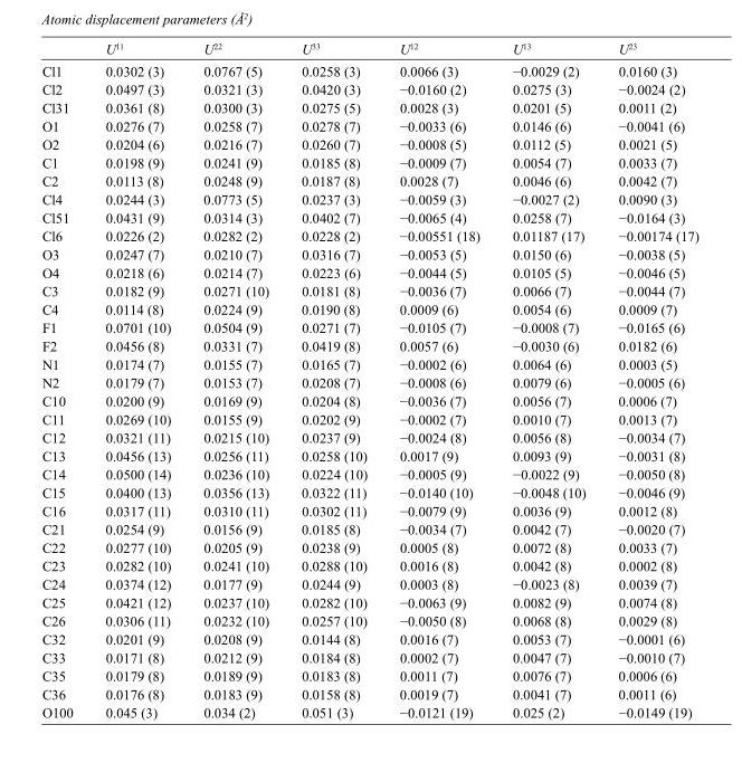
<table><thead><tr><td></td><td>U<sup>11</sup></td><td>U<sup>22</sup></td><td>U<sup>33</sup></td><td>U<sup>12</sup></td><td>U<sup>13</sup></td><td>U<sup>23</sup></td></tr></thead><tbody><tr><td>Cl1</td><td>0.0302 (3)</td><td>0.0767 (5)</td><td>0.0258 (3)</td><td>0.0066 (3)</td><td>−0.0029 (2)</td><td>0.0160 (3)</td></tr><tr><td>Cl2</td><td>0.0497 (3)</td><td>0.0321 (3)</td><td>0.0420 (3)</td><td>−0.0160 (2)</td><td>0.0275 (3)</td><td>−0.0024 (2)</td></tr><tr><td>Cl31</td><td>0.0361 (8)</td><td>0.0300 (3)</td><td>0.0275 (5)</td><td>0.0028 (3)</td><td>0.0201 (5)</td><td>0.0011 (2)</td></tr><tr><td>O1</td><td>0.0276 (7)</td><td>0.0258 (7)</td><td>0.0278 (7)</td><td>−0.0033 (6)</td><td>0.0146 (6)</td><td>−0.0041 (6)</td></tr><tr><td>O2</td><td>0.0204 (6)</td><td>0.0216 (7)</td><td>0.0260 (7)</td><td>−0.0008 (5)</td><td>0.0112 (5)</td><td>0.0021 (5)</td></tr><tr><td>C1</td><td>0.0198 (9)</td><td>0.0241 (9)</td><td>0.0185 (8)</td><td>−0.0009 (7)</td><td>0.0054 (7)</td><td>0.0033 (7)</td></tr><tr><td>C2</td><td>0.0113 (8)</td><td>0.0248 (9)</td><td>0.0187 (8)</td><td>0.0028 (7)</td><td>0.0046 (6)</td><td>0.0042 (7)</td></tr><tr><td>Cl4</td><td>0.0244 (3)</td><td>0.0773 (5)</td><td>0.0237 (3)</td><td>−0.0059 (3)</td><td>−0.0027 (2)</td><td>0.0090 (3)</td></tr><tr><td>Cl51</td><td>0.0431 (9)</td><td>0.0314 (3)</td><td>0.0402 (7)</td><td>−0.0065 (4)</td><td>0.0258 (7)</td><td>−0.0164 (3)</td></tr><tr><td>Cl6</td><td>0.0226 (2)</td><td>0.0282 (2)</td><td>0.0228 (2)</td><td>−0.00551 (18)</td><td>0.01187 (17)</td><td>−0.00174 (17)</td></tr><tr><td>O3</td><td>0.0247 (7)</td><td>0.0210 (7)</td><td>0.0316 (7)</td><td>−0.0053 (5)</td><td>0.0150 (6)</td><td>−0.0038 (5)</td></tr><tr><td>O4</td><td>0.0218 (6)</td><td>0.0214 (7)</td><td>0.0223 (6)</td><td>−0.0044 (5)</td><td>0.0105 (5)</td><td>−0.0046 (5)</td></tr><tr><td>C3</td><td>0.0182 (9)</td><td>0.0271 (10)</td><td>0.0181 (8)</td><td>−0.0036 (7)</td><td>0.0066 (7)</td><td>−0.0044 (7)</td></tr><tr><td>C4</td><td>0.0114 (8)</td><td>0.0224 (9)</td><td>0.0190 (8)</td><td>0.0009 (6)</td><td>0.0054 (6)</td><td>0.0009 (7)</td></tr><tr><td>F1</td><td>0.0701 (10)</td><td>0.0504 (9)</td><td>0.0271 (7)</td><td>−0.0105 (7)</td><td>−0.0008 (7)</td><td>−0.0165 (6)</td></tr><tr><td>F2</td><td>0.0456 (8)</td><td>0.0331 (7)</td><td>0.0419 (8)</td><td>0.0057 (6)</td><td>−0.0030 (6)</td><td>0.0182 (6)</td></tr><tr><td>N1</td><td>0.0174 (7)</td><td>0.0155 (7)</td><td>0.0165 (7)</td><td>−0.0002 (6)</td><td>0.0064 (6)</td><td>0.0003 (5)</td></tr><tr><td>N2</td><td>0.0179 (7)</td><td>0.0153 (7)</td><td>0.0208 (7)</td><td>−0.0008 (6)</td><td>0.0079 (6)</td><td>−0.0005 (6)</td></tr><tr><td>C10</td><td>0.0200 (9)</td><td>0.0169 (9)</td><td>0.0204 (8)</td><td>−0.0036 (7)</td><td>0.0056 (7)</td><td>0.0006 (7)</td></tr><tr><td>C11</td><td>0.0269 (10)</td><td>0.0155 (9)</td><td>0.0202 (9)</td><td>−0.0002 (7)</td><td>0.0010 (7)</td><td>0.0013 (7)</td></tr><tr><td>C12</td><td>0.0321 (11)</td><td>0.0215 (10)</td><td>0.0237 (9)</td><td>−0.0024 (8)</td><td>0.0056 (8)</td><td>−0.0034 (7)</td></tr><tr><td>C13</td><td>0.0456 (13)</td><td>0.0256 (11)</td><td>0.0258 (10)</td><td>0.0017 (9)</td><td>0.0093 (9)</td><td>−0.0031 (8)</td></tr><tr><td>C14</td><td>0.0500 (14)</td><td>0.0236 (10)</td><td>0.0224 (10)</td><td>−0.0005 (9)</td><td>−0.0022 (9)</td><td>−0.0050 (8)</td></tr><tr><td>C15</td><td>0.0400 (13)</td><td>0.0356 (13)</td><td>0.0322 (11)</td><td>−0.0140 (10)</td><td>−0.0048 (10)</td><td>−0.0046 (9)</td></tr><tr><td>C16</td><td>0.0317 (11)</td><td>0.0310 (11)</td><td>0.0302 (11)</td><td>−0.0079 (9)</td><td>0.0036 (9)</td><td>0.0012 (8)</td></tr><tr><td>C21</td><td>0.0254 (9)</td><td>0.0156 (9)</td><td>0.0185 (8)</td><td>−0.0034 (7)</td><td>0.0042 (7)</td><td>−0.0020 (7)</td></tr><tr><td>C22</td><td>0.0277 (10)</td><td>0.0205 (9)</td><td>0.0238 (9)</td><td>0.0005 (8)</td><td>0.0072 (8)</td><td>0.0033 (7)</td></tr><tr><td>C23</td><td>0.0282 (10)</td><td>0.0241 (10)</td><td>0.0288 (10)</td><td>0.0016 (8)</td><td>0.0042 (8)</td><td>0.0002 (8)</td></tr><tr><td>C24</td><td>0.0374 (12)</td><td>0.0177 (9)</td><td>0.0244 (9)</td><td>0.0003 (8)</td><td>−0.0023 (8)</td><td>0.0039 (7)</td></tr><tr><td>C25</td><td>0.0421 (12)</td><td>0.0237 (10)</td><td>0.0282 (10)</td><td>−0.0063 (9)</td><td>0.0082 (9)</td><td>0.0074 (8)</td></tr><tr><td>C26</td><td>0.0306 (11)</td><td>0.0232 (10)</td><td>0.0257 (10)</td><td>−0.0050 (8)</td><td>0.0068 (8)</td><td>0.0029 (8)</td></tr><tr><td>C32</td><td>0.0201 (9)</td><td>0.0208 (9)</td><td>0.0144 (8)</td><td>0.0016 (7)</td><td>0.0053 (7)</td><td>−0.0001 (6)</td></tr><tr><td>C33</td><td>0.0171 (8)</td><td>0.0212 (9)</td><td>0.0184 (8)</td><td>0.0002 (7)</td><td>0.0047 (7)</td><td>−0.0010 (7)</td></tr><tr><td>C35</td><td>0.0179 (8)</td><td>0.0189 (9)</td><td>0.0183 (8)</td><td>0.0011 (7)</td><td>0.0076 (7)</td><td>0.0006 (6)</td></tr><tr><td>C36</td><td>0.0176 (8)</td><td>0.0183 (9)</td><td>0.0158 (8)</td><td>0.0019 (7)</td><td>0.0041 (7)</td><td>0.0011 (6)</td></tr><tr><td>O100</td><td>0.045 (3)</td><td>0.034 (2)</td><td>0.051 (3)</td><td>−0.0121 (19)</td><td>0.025 (2)</td><td>−0.0149 (19)</td></tr></tbody></table>